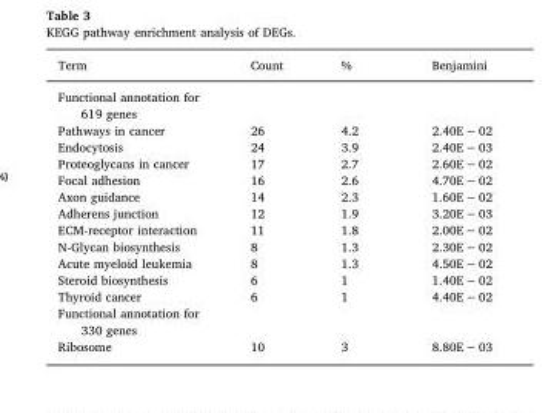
<table><thead><tr><td>Term</td><td>Count</td><td>%</td><td>Benjamini</td></tr></thead><tbody><tr><td colspan="4">Functional annotation for 619 genes</td></tr><tr><td>Pathways in cancer</td><td>26</td><td>4.2</td><td>2.40E−02</td></tr><tr><td>Endocytosis</td><td>24</td><td>3.9</td><td>2.40E−03</td></tr><tr><td>Proteoglycans in cancer</td><td>17</td><td>2.7</td><td>2.60E−02</td></tr><tr><td>Focal adhesion</td><td>16</td><td>2.6</td><td>4.70E−02</td></tr><tr><td>Axon guidance</td><td>14</td><td>2.3</td><td>1.60E−02</td></tr><tr><td>Adherens junction</td><td>12</td><td>1.9</td><td>3.20E−03</td></tr><tr><td>ECM-receptor interaction</td><td>11</td><td>1.8</td><td>2.00E−02</td></tr><tr><td>N-Glycan biosynthesis</td><td>8</td><td>1.3</td><td>2.30E−02</td></tr><tr><td>Acute myeloid leukemia</td><td>8</td><td>1.3</td><td>4.50E−02</td></tr><tr><td>Steroid biosynthesis</td><td>6</td><td>1</td><td>1.40E−02</td></tr><tr><td>Thyroid cancer</td><td>6</td><td>1</td><td>4.40E−02</td></tr><tr><td colspan="4">Functional annotation for 330 genes</td></tr><tr><td>Ribosome</td><td>10</td><td>3</td><td>8.80E−03</td></tr></tbody></table>